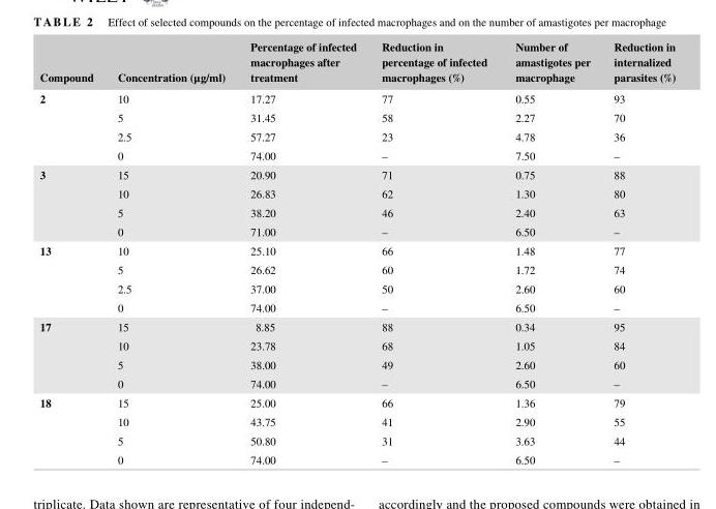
<table><thead><tr><td>Compound</td><td>Concentration (μg/ml)</td><td>Percentage of infected macrophages after treatment</td><td>Reduction in percentage of infected macrophages (%)</td><td>Number of amastigotes per macrophage</td><td>Reduction in internalized parasites (%)</td></tr></thead><tbody><tr><td rowspan="4">2</td><td>10</td><td>17.27</td><td>77</td><td>0.55</td><td>93</td></tr><tr><td>5</td><td>31.45</td><td>58</td><td>2.27</td><td>70</td></tr><tr><td>2.5</td><td>57.27</td><td>23</td><td>4.78</td><td>36</td></tr><tr><td>0</td><td>74.00</td><td>–</td><td>7.50</td><td>–</td></tr><tr><td rowspan="4">3</td><td>15</td><td>20.90</td><td>71</td><td>0.75</td><td>88</td></tr><tr><td>10</td><td>26.83</td><td>62</td><td>1.30</td><td>80</td></tr><tr><td>5</td><td>38.20</td><td>46</td><td>2.40</td><td>63</td></tr><tr><td>0</td><td>71.00</td><td>–</td><td>6.50</td><td>–</td></tr><tr><td rowspan="4">13</td><td>10</td><td>25.10</td><td>66</td><td>1.48</td><td>77</td></tr><tr><td>5</td><td>26.62</td><td>60</td><td>1.72</td><td>74</td></tr><tr><td>2.5</td><td>37.00</td><td>50</td><td>2.60</td><td>60</td></tr><tr><td>0</td><td>74.00</td><td>–</td><td>6.50</td><td>–</td></tr><tr><td rowspan="4">17</td><td>15</td><td>8.85</td><td>88</td><td>0.34</td><td>95</td></tr><tr><td>10</td><td>23.78</td><td>68</td><td>1.05</td><td>84</td></tr><tr><td>5</td><td>38.00</td><td>49</td><td>2.60</td><td>60</td></tr><tr><td>0</td><td>74.00</td><td>–</td><td>6.50</td><td>–</td></tr><tr><td rowspan="4">18</td><td>15</td><td>25.00</td><td>66</td><td>1.36</td><td>79</td></tr><tr><td>10</td><td>43.75</td><td>41</td><td>2.90</td><td>55</td></tr><tr><td>5</td><td>50.80</td><td>31</td><td>3.63</td><td>44</td></tr><tr><td>0</td><td>74.00</td><td>–</td><td>6.50</td><td>–</td></tr></tbody></table>